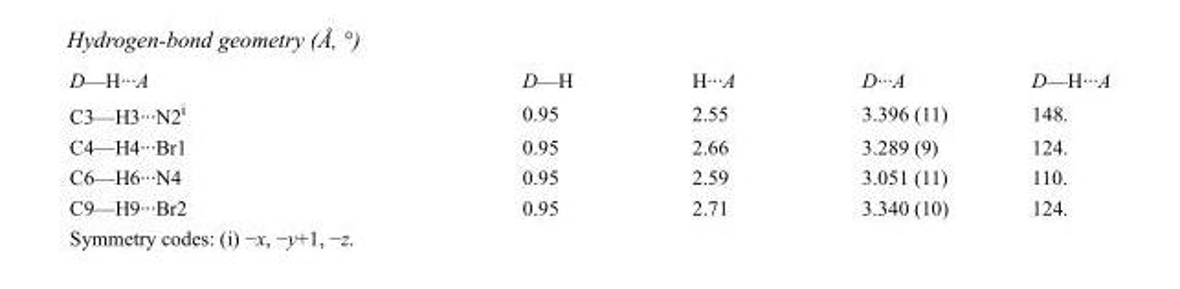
<table><tbody><tr><td>D—H···A</td><td>D—H</td><td>H···A</td><td>D···A</td><td>D—H···A</td></tr><tr><td>C3—H3···N2<sup>i</sup></td><td>0.95</td><td>2.55</td><td>3.396 (11)</td><td>148.</td></tr><tr><td>C4—H4···Br1</td><td>0.95</td><td>2.66</td><td>3.289 (9)</td><td>124.</td></tr><tr><td>C6—H6···N4</td><td>0.95</td><td>2.59</td><td>3.051 (11)</td><td>110.</td></tr><tr><td>C9—H9···Br2</td><td>0.95</td><td>2.71</td><td>3.340 (10)</td><td>124.</td></tr></tbody></table>